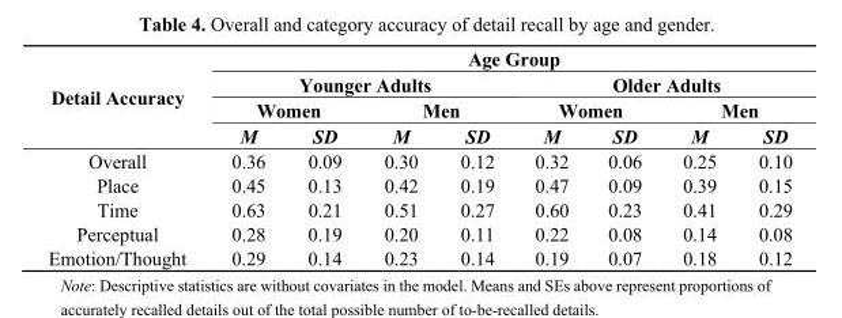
<table><thead><tr><td rowspan="4">Detail Accuracy</td><td colspan="8">Age Group</td></tr><tr><td colspan="4">Younger Adults</td><td colspan="4">Older Adults</td></tr><tr><td colspan="2">Women</td><td colspan="2">Men</td><td colspan="2">Women</td><td colspan="2">Men</td></tr><tr><td>M</td><td>SD</td><td>M</td><td>SD</td><td>M</td><td>SD</td><td>M</td><td>SD</td></tr></thead><tbody><tr><td>Overall</td><td>0.36</td><td>0.09</td><td>0.30</td><td>0.12</td><td>0.32</td><td>0.06</td><td>0.25</td><td>0.10</td></tr><tr><td>Place</td><td>0.45</td><td>0.13</td><td>0.42</td><td>0.19</td><td>0.47</td><td>0.09</td><td>0.39</td><td>0.15</td></tr><tr><td>Time</td><td>0.63</td><td>0.21</td><td>0.51</td><td>0.27</td><td>0.60</td><td>0.23</td><td>0.41</td><td>0.29</td></tr><tr><td>Perceptual</td><td>0.28</td><td>0.19</td><td>0.20</td><td>0.11</td><td>0.22</td><td>0.08</td><td>0.14</td><td>0.08</td></tr><tr><td>Emotion/Thought</td><td>0.29</td><td>0.14</td><td>0.23</td><td>0.14</td><td>0.19</td><td>0.07</td><td>0.18</td><td>0.12</td></tr></tbody></table>